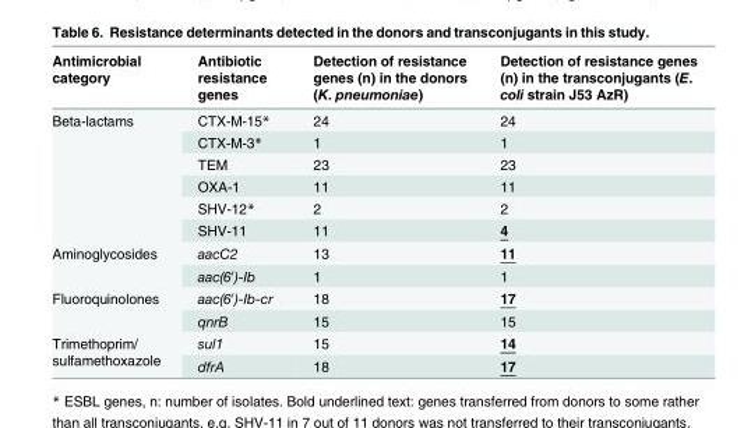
<table><thead><tr><td>Antimicrobial category</td><td>Antibiotic resistance genes</td><td>Detection of resistance genes (n) in the donors (K. pneumoniae)</td><td>Detection of resistance genes (n) in the transconjugants (E. coli strain J53 AzR)</td></tr></thead><tbody><tr><td rowspan="6">Beta-lactams</td><td>CTX-M-15*</td><td>24</td><td>24</td></tr><tr><td>CTX-M-3*</td><td>1</td><td>1</td></tr><tr><td>TEM</td><td>23</td><td>23</td></tr><tr><td>OXA-1</td><td>11</td><td>11</td></tr><tr><td>SHV-12*</td><td>2</td><td>2</td></tr><tr><td>SHV-11</td><td>11</td><td>4</td></tr><tr><td rowspan="2">Aminoglycosides</td><td>aacC2</td><td>13</td><td>11</td></tr><tr><td>aac(6ˊ)-Ib</td><td>1</td><td>1</td></tr><tr><td rowspan="2">Fluoroquinolones</td><td>aac(6ˊ)-Ib-cr</td><td>18</td><td>17</td></tr><tr><td>qnrB</td><td>15</td><td>15</td></tr><tr><td rowspan="2">Trimethoprim/ sulfamethoxazole</td><td>sul1</td><td>15</td><td>14</td></tr><tr><td>dfrA</td><td>18</td><td>17</td></tr></tbody></table>